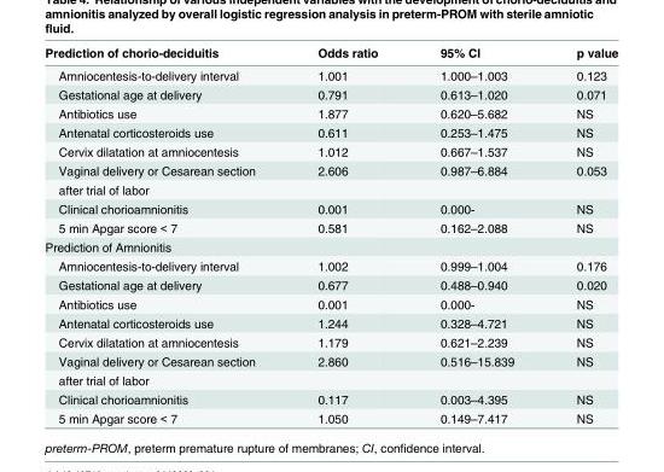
<table><thead><tr><td>Prediction of chorio-deciduitis</td><td>Odds ratio</td><td>95% CI</td><td>p value</td></tr></thead><tbody><tr><td>Amniocentesis-to-delivery interval</td><td>1.001</td><td>1.000–1.003</td><td>0.123</td></tr><tr><td>Gestational age at delivery</td><td>0.791</td><td>0.613–1.020</td><td>0.071</td></tr><tr><td>Antibiotics use</td><td>1.877</td><td>0.620–5.682</td><td>NS</td></tr><tr><td>Antenatal corticosteroids use</td><td>0.611</td><td>0.253–1.475</td><td>NS</td></tr><tr><td>Cervix dilatation at amniocentesis</td><td>1.012</td><td>0.667–1.537</td><td>NS</td></tr><tr><td>Vaginal delivery or Cesarean section</td><td>2.606</td><td>0.987–6.884</td><td>0.053</td></tr><tr><td colspan="4">after trial of labor</td></tr><tr><td>Clinical chorioamnionitis</td><td>0.001</td><td>0.000-</td><td>NS</td></tr><tr><td>5 min Apgar score &lt; 7</td><td>0.581</td><td>0.162–2.088</td><td>NS</td></tr><tr><td colspan="4">Prediction of Amnionitis</td></tr><tr><td>Amniocentesis-to-delivery interval</td><td>1.002</td><td>0.999–1.004</td><td>0.176</td></tr><tr><td>Gestational age at delivery</td><td>0.677</td><td>0.488–0.940</td><td>0.020</td></tr><tr><td>Antibiotics use</td><td>0.001</td><td>0.000-</td><td>NS</td></tr><tr><td>Antenatal corticosteroids use</td><td>1.244</td><td>0.328–4.721</td><td>NS</td></tr><tr><td>Cervix dilatation at amniocentesis</td><td>1.179</td><td>0.621–2.239</td><td>NS</td></tr><tr><td>Vaginal delivery or Cesarean section</td><td>2.860</td><td>0.516–15.839</td><td>NS</td></tr><tr><td colspan="4">after trial of labor</td></tr><tr><td>Clinical chorioamnionitis</td><td>0.117</td><td>0.003–4.395</td><td>NS</td></tr><tr><td>5 min Apgar score &lt; 7</td><td>1.050</td><td>0.149–7.417</td><td>NS</td></tr></tbody></table>